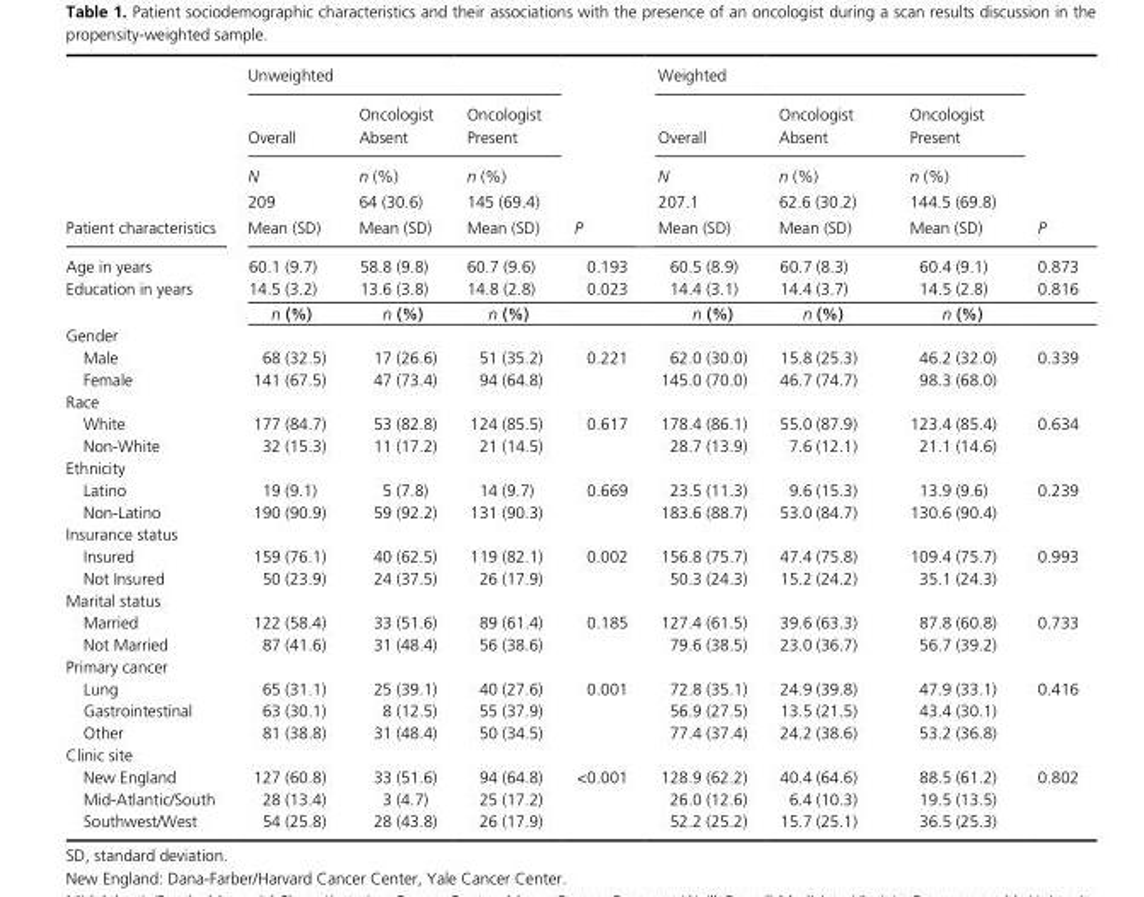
<table><thead><tr><td rowspan="5">Patient characteristics</td><td colspan="3">Unweighted</td><td rowspan="5">P</td><td colspan="3">Weighted</td><td rowspan="5">P</td></tr><tr><td rowspan="4">Overall N 209 Mean (SD)</td><td rowspan="4">Oncologist Absent n (%) 64 (30.6) Mean (SD)</td><td rowspan="4">Oncologist Present n (%) 145 (69.4) Mean (SD)</td><td rowspan="4">Overall N 207.1 Mean (SD)</td><td rowspan="4">Oncologist Absent n (%) 62.6 (30.2) Mean (SD)</td><td rowspan="4">Oncologist Present n (%) 144.5 (69.8) Mean (SD)</td></tr><tr></tr><tr></tr><tr></tr></thead><tbody><tr><td>Age in years</td><td>60.1 (9.7)</td><td>58.8 (9.8)</td><td>60.7 (9.6)</td><td>0.193</td><td>60.5 (8.9)</td><td>60.7 (8.3)</td><td>60.4 (9.1)</td><td>0.873</td></tr><tr><td rowspan="2">Education in years</td><td>14.5 (3.2)</td><td>13.6 (3.8)</td><td>14.8 (2.8)</td><td>0.023</td><td>14.4 (3.1)</td><td>14.4 (3.7)</td><td>14.5 (2.8)</td><td>0.816</td></tr><tr><td>n (%)</td><td>n (%)</td><td>n (%)</td><td></td><td>n (%)</td><td>n (%)</td><td>n (%)</td><td></td></tr><tr><td colspan="9">Gender</td></tr><tr><td>Male</td><td>68 (32.5)</td><td>17 (26.6)</td><td>51 (35.2)</td><td rowspan="2">0.221</td><td>62.0 (30.0)</td><td>15.8 (25.3)</td><td>46.2 (32.0)</td><td rowspan="2">0.339</td></tr><tr><td>Female</td><td>141 (67.5)</td><td>47 (73.4)</td><td>94 (64.8)</td><td>145.0 (70.0)</td><td>46.7 (74.7)</td><td>98.3 (68.0)</td></tr><tr><td colspan="9">Race</td></tr><tr><td>White</td><td>177 (84.7)</td><td>53 (82.8)</td><td>124 (85.5)</td><td rowspan="2">0.617</td><td>178.4 (86.1)</td><td>55.0 (87.9)</td><td>123.4 (85.4)</td><td rowspan="2">0.634</td></tr><tr><td>Non- White</td><td>32 (15.3)</td><td>11 (17.2)</td><td>21 (14.5)</td><td>28.7 (13.9)</td><td>7.6 (12.1)</td><td>21.1 (14.6)</td></tr><tr><td colspan="9">Ethnicity</td></tr><tr><td>Latino</td><td>19 (9.1)</td><td>5 (7.8)</td><td>14 (9.7)</td><td rowspan="2">0.669</td><td>23.5 (11.3)</td><td>9.6 (15.3)</td><td>13.9 (9.6)</td><td rowspan="2">0.239</td></tr><tr><td>Non- Latino</td><td>190 (90.9)</td><td>59 (92.2)</td><td>131 (90.3)</td><td>183.6 (88.7)</td><td>53.0 (84.7)</td><td>130.6 (90.4)</td></tr><tr><td colspan="9">Insurance status</td></tr><tr><td>Insured</td><td>159 (76.1)</td><td>40 (62.5)</td><td>119 (82.1)</td><td rowspan="2">0.002</td><td>156.8 (75.7)</td><td>47.4 (75.8)</td><td>109.4 (75.7)</td><td rowspan="2">0.993</td></tr><tr><td>Not Insured</td><td>50 (23.9)</td><td>24 (37.5)</td><td>26 (17.9)</td><td>50.3 (24.3)</td><td>15.2 (24.2)</td><td>35.1 (24.3)</td></tr><tr><td colspan="9">Marital status</td></tr><tr><td>Married</td><td>122 (58.4)</td><td>33 (51.6)</td><td>89 (61.4)</td><td rowspan="2">0.185</td><td>127.4 (61.5)</td><td>39.6 (63.3)</td><td>87.8 (60.8)</td><td rowspan="2">0.733</td></tr><tr><td>Not Married</td><td>87 (41.6)</td><td>31 (48.4)</td><td>56 (38.6)</td><td>79.6 (38.5)</td><td>23.0 (36.7)</td><td>56.7 (39.2)</td></tr><tr><td colspan="9">Primary cancer</td></tr><tr><td>Lung</td><td>65 (31.1)</td><td>25 (39.1)</td><td>40 (27.6)</td><td rowspan="3">0.001</td><td>72.8 (35.1)</td><td>24.9 (39.8)</td><td>47.9 (33.1)</td><td rowspan="3">0.416</td></tr><tr><td>Gastrointestinal</td><td>63 (30.1)</td><td>8 (12.5)</td><td>55 (37.9)</td><td>56.9 (27.5)</td><td>13.5 (21.5)</td><td>43.4 (30.1)</td></tr><tr><td>Other</td><td>81 (38.8)</td><td>31 (48.4)</td><td>50 (34.5)</td><td>77.4 (37.4)</td><td>24.2 (38.6)</td><td>53.2 (36.8)</td></tr><tr><td colspan="9">Clinic site</td></tr><tr><td>New England</td><td>127 (60.8)</td><td>33 (51.6)</td><td>94 (64.8)</td><td rowspan="3">&lt;0.001</td><td>128.9 (62.2)</td><td>40.4 (64.6)</td><td>88.5 (61.2)</td><td rowspan="3">0.802</td></tr><tr><td>Mid- Atlantic/South</td><td>28 (13.4)</td><td>3 (4.7)</td><td>25 (17.2)</td><td>26.0 (12.6)</td><td>6.4 (10.3)</td><td>19.5 (13.5)</td></tr><tr><td>Southwest/West</td><td>54 (25.8)</td><td>28 (43.8)</td><td>26 (17.9)</td><td>52.2 (25.2)</td><td>15.7 (25.1)</td><td>36.5 (25.3)</td></tr></tbody></table>